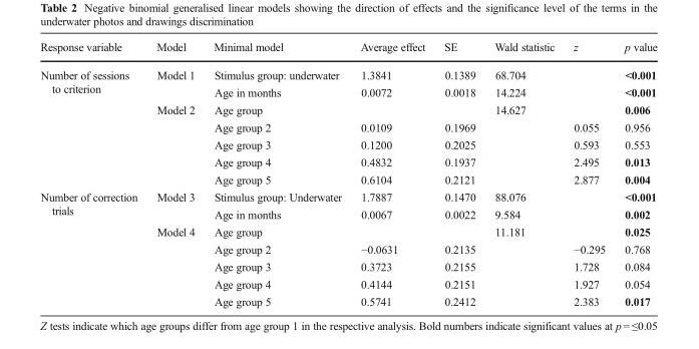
<table><thead><tr><td>Response variable</td><td>Model</td><td>Minimal model</td><td>Average effect</td><td>SE</td><td>Wald statistic</td><td>z</td><td>p value</td></tr></thead><tbody><tr><td rowspan="7">Number of sessions to criterion</td><td rowspan="2">Model 1</td><td>Stimulus group: underwater</td><td>1.3841</td><td>0.1389</td><td>68.704</td><td></td><td>&lt;0.001</td></tr><tr><td>Age in months</td><td>0.0072</td><td>0.0018</td><td>14.224</td><td></td><td>&lt;0.001</td></tr><tr><td rowspan="5">Model 2</td><td>Age group</td><td></td><td></td><td>14.627</td><td></td><td>0.006</td></tr><tr><td>Age group 2</td><td>0.0109</td><td>0.1969</td><td></td><td>0.055</td><td>0.956</td></tr><tr><td>Age group 3</td><td>0.1200</td><td>0.2025</td><td></td><td>0.593</td><td>0.553</td></tr><tr><td>Age group 4</td><td>0.4832</td><td>0.1937</td><td></td><td>2.495</td><td>0.013</td></tr><tr><td>Age group 5</td><td>0.6104</td><td>0.2121</td><td></td><td>2.877</td><td>0.004</td></tr><tr><td rowspan="7">Number of correction trials</td><td rowspan="2">Model 3</td><td>Stimulus group: Underwater</td><td>1.7887</td><td>0.1470</td><td>88.076</td><td></td><td>&lt;0.001</td></tr><tr><td>Age in months</td><td>0.0067</td><td>0.0022</td><td>9.584</td><td></td><td>0.002</td></tr><tr><td rowspan="5">Model 4</td><td>Age group</td><td></td><td></td><td>11.181</td><td></td><td>0.025</td></tr><tr><td>Age group 2</td><td>−0.0631</td><td>0.2135</td><td></td><td>−0.295</td><td>0.768</td></tr><tr><td>Age group 3</td><td>0.3723</td><td>0.2155</td><td></td><td>1.728</td><td>0.084</td></tr><tr><td>Age group 4</td><td>0.4144</td><td>0.2151</td><td></td><td>1.927</td><td>0.054</td></tr><tr><td>Age group 5</td><td>0.5741</td><td>0.2412</td><td></td><td>2.383</td><td>0.017</td></tr></tbody></table>